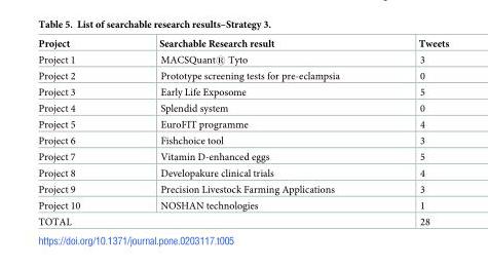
<table><thead><tr><td>Project</td><td>Searchable Research result</td><td>Tweets</td></tr></thead><tbody><tr><td>Project 1</td><td>MACSQuant® Tyto</td><td>3</td></tr><tr><td>Project 2</td><td>Prototype screening tests for pre-eclampsia</td><td>0</td></tr><tr><td>Project 3</td><td>Early Life Exposome</td><td>5</td></tr><tr><td>Project 4</td><td>Splendid system</td><td>0</td></tr><tr><td>Project 5</td><td>EuroFIT programme</td><td>4</td></tr><tr><td>Project 6</td><td>Fishchoice tool</td><td>3</td></tr><tr><td>Project 7</td><td>Vitamin D-enhanced eggs</td><td>5</td></tr><tr><td>Project 8</td><td>Developakure clinical trials</td><td>4</td></tr><tr><td>Project 9</td><td>Precision Livestock Farming Applications</td><td>3</td></tr><tr><td>Project 10</td><td>NOSHAN technologies</td><td>1</td></tr><tr><td colspan="2">TOTAL</td><td>28</td></tr></tbody></table>